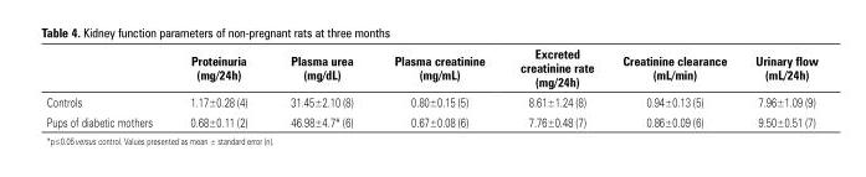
<table><thead><tr><td></td><td>Proteinuria (mg/24h)</td><td>Plasma urea (mg/dL)</td><td>Plasma creatinine (mg/mL)</td><td>Excreted creatinine rate (mg/24h)</td><td>Creatinine clearance (mL/min)</td><td>Urinary flow (mL/24h)</td></tr></thead><tbody><tr><td>Controls</td><td>1.17±0.28 (4)</td><td>31.45±2.10 (8)</td><td>0.80±0.15 (5)</td><td>8.61±1.24 (8)</td><td>0.94±0.13 (5)</td><td>7.96±1.09 (9)</td></tr><tr><td>Pups of diabetic mothers</td><td>0.68±0.11 (2)</td><td>46.98±4.7* (6)</td><td>0.67±0.08 (6)</td><td>7.76±0.48 (7)</td><td>0.86±0.09 (6)</td><td>9.50±0.51 (7)</td></tr></tbody></table>